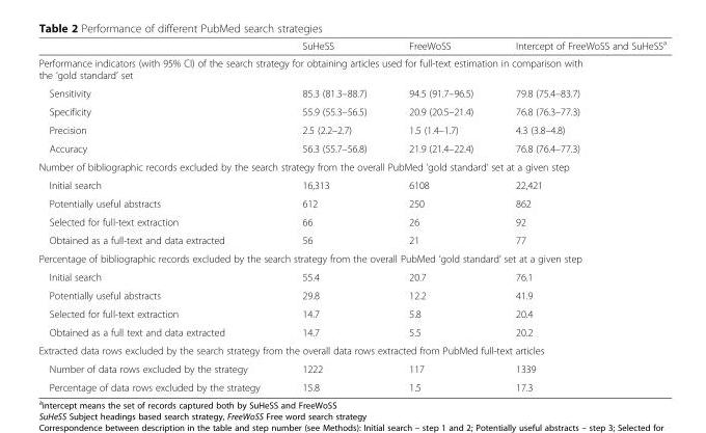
<table><thead><tr><td></td><td>SuHeSS</td><td>FreeWoSS</td><td>Intercept of FreeWoSS and SuHeSS<sup>a</sup></td></tr></thead><tbody><tr><td colspan="4">Performance indicators (with 95% CI) of the search strategy for obtaining articles used for full-text estimation in comparison with the ‘gold standard’ set</td></tr><tr><td>Sensitivity</td><td>85.3 (81.3–88.7)</td><td>94.5 (91.7–96.5)</td><td>79.8 (75.4–83.7)</td></tr><tr><td>Specificity</td><td>55.9 (55.3–56.5)</td><td>20.9 (20.5–21.4)</td><td>76.8 (76.3–77.3)</td></tr><tr><td>Precision</td><td>2.5 (2.2–2.7)</td><td>1.5 (1.4–1.7)</td><td>4.3 (3.8–4.8)</td></tr><tr><td>Accuracy</td><td>56.3 (55.7–56.8)</td><td>21.9 (21.4–22.4)</td><td>76.8 (76.4–77.3)</td></tr><tr><td colspan="4">Number of bibliographic records excluded by the search strategy from the overall PubMed ‘gold standard’ set at a given step</td></tr><tr><td>Initial search</td><td>16,313</td><td>6108</td><td>22,421</td></tr><tr><td>Potentially useful abstracts</td><td>612</td><td>250</td><td>862</td></tr><tr><td>Selected for full-text extraction</td><td>66</td><td>26</td><td>92</td></tr><tr><td>Obtained as a full-text and data extracted</td><td>56</td><td>21</td><td>77</td></tr><tr><td colspan="4">Percentage of bibliographic records excluded by the search strategy from the overall PubMed ‘gold standard’ set at a given step</td></tr><tr><td>Initial search</td><td>55.4</td><td>20.7</td><td>76.1</td></tr><tr><td>Potentially useful abstracts</td><td>29.8</td><td>12.2</td><td>41.9</td></tr><tr><td>Selected for full-text extraction</td><td>14.7</td><td>5.8</td><td>20.4</td></tr><tr><td>Obtained as a full text and data extracted</td><td>14.7</td><td>5.5</td><td>20.2</td></tr><tr><td colspan="4">Extracted data rows excluded by the search strategy from the overall data rows extracted from PubMed full-text articles</td></tr><tr><td>Number of data rows excluded by the strategy</td><td>1222</td><td>117</td><td>1339</td></tr><tr><td>Percentage of data rows excluded by the strategy</td><td>15.8</td><td>1.5</td><td>17.3</td></tr></tbody></table>